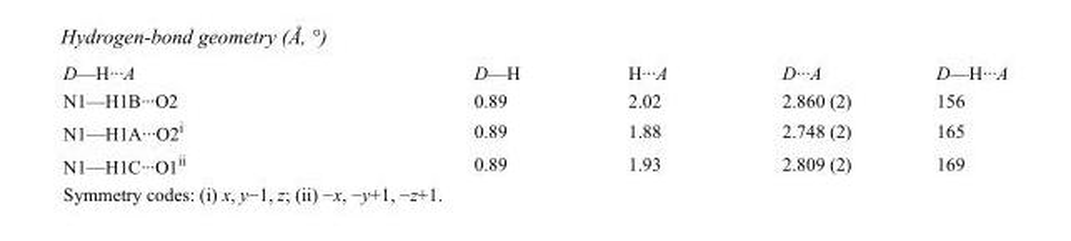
<table><tbody><tr><td>D—H···A</td><td>D—H</td><td>H···A</td><td>D···A</td><td>D—H···A</td></tr><tr><td>N1—H1B···O2</td><td>0.89</td><td>2.02</td><td>2.860 (2)</td><td>156</td></tr><tr><td>N1—H1A···O2<sup>i</sup></td><td>0.89</td><td>1.88</td><td>2.748 (2)</td><td>165</td></tr><tr><td>N1—H1C···O1<sup>ii</sup></td><td>0.89</td><td>1.93</td><td>2.809 (2)</td><td>169</td></tr></tbody></table>